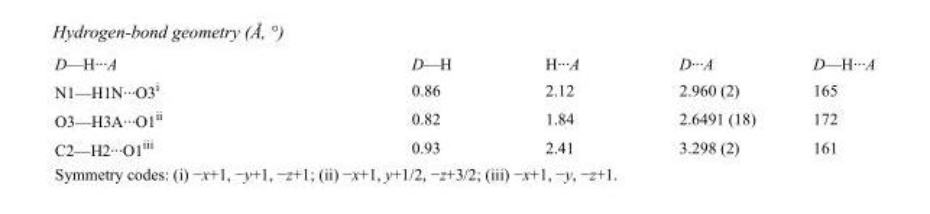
<table><tbody><tr><td>D—H···A</td><td>D—H</td><td>H···A</td><td>D···A</td><td>D—H···A</td></tr><tr><td>N1—H1N···O3<sup>i</sup></td><td>0.86</td><td>2.12</td><td>2.960 (2)</td><td>165</td></tr><tr><td>O3—H3A···O1<sup>ii</sup></td><td>0.82</td><td>1.84</td><td>2.6491 (18)</td><td>172</td></tr><tr><td>C2—H2···O1<sup>iii</sup></td><td>0.93</td><td>2.41</td><td>3.298 (2)</td><td>161</td></tr></tbody></table>